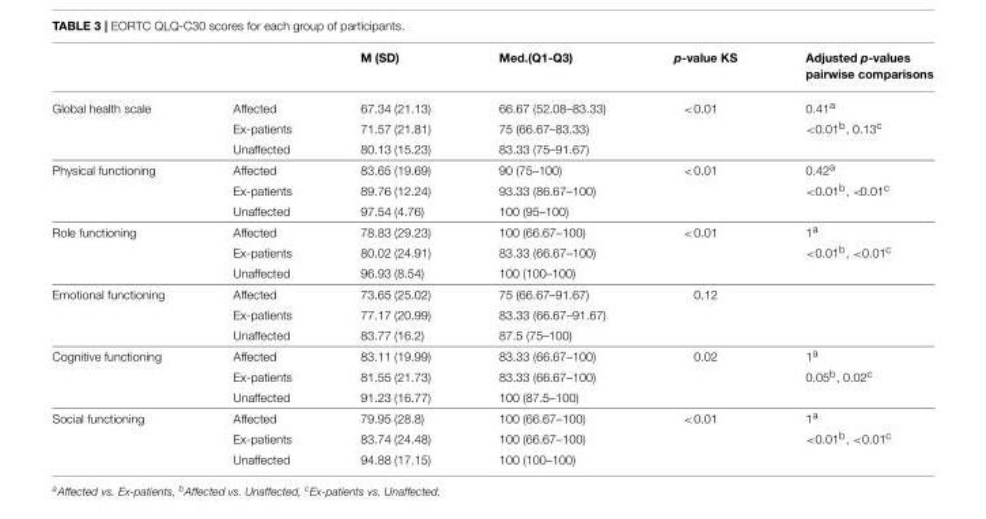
<table><thead><tr><td></td><td></td><td>M (SD)</td><td>Med.(Q1-Q3)</td><td>p-value KS</td><td>Adjusted p-values pairwise comparisons</td></tr></thead><tbody><tr><td rowspan="3">Global health scale</td><td>Affected</td><td>67.34 (21.13)</td><td>66.67 (52.08–83.33)</td><td>&lt;0.01</td><td>0.41<sup>a</sup></td></tr><tr><td>Ex-patients</td><td>71.57 (21.81)</td><td>75 (66.67–83.33)</td><td></td><td>&lt;0.01<sup>b</sup>, 0.13<sup>c</sup></td></tr><tr><td>Unaffected</td><td>80.13 (15.23)</td><td>83.33 (75–91.67)</td><td></td><td></td></tr><tr><td rowspan="3">Physical functioning</td><td>Affected</td><td>83.65 (19.69)</td><td>90 (75–100)</td><td>&lt;0.01</td><td>0.42<sup>a</sup></td></tr><tr><td>Ex-patients</td><td>89.76 (12.24)</td><td>93.33 (86.67–100)</td><td></td><td>&lt;0.01<sup>b</sup>, &lt;0.01<sup>c</sup></td></tr><tr><td>Unaffected</td><td>97.54 (4.76)</td><td>100 (95–100)</td><td></td><td></td></tr><tr><td rowspan="3">Role functioning</td><td>Affected</td><td>78.83 (29.23)</td><td>100 (66.67–100)</td><td>&lt;0.01</td><td>1<sup>a</sup></td></tr><tr><td>Ex-patients</td><td>80.02 (24.91)</td><td>83.33 (66.67–100)</td><td></td><td>&lt;0.01<sup>b</sup>, &lt;0.01<sup>c</sup></td></tr><tr><td>Unaffected</td><td>96.93 (8.54)</td><td>100 (100–100)</td><td></td><td></td></tr><tr><td rowspan="3">Emotional functioning</td><td>Affected</td><td>73.65 (25.02)</td><td>75 (66.67–91.67)</td><td>0.12</td><td></td></tr><tr><td>Ex-patients</td><td>77.17 (20.99)</td><td>83.33 (66.67–91.67)</td><td></td><td></td></tr><tr><td>Unaffected</td><td>83.77 (16.2)</td><td>87.5 (75–100)</td><td></td><td></td></tr><tr><td rowspan="3">Cognitive functioning</td><td>Affected</td><td>83.11 (19.99)</td><td>83.33 (66.67–100)</td><td>0.02</td><td>1<sup>a</sup></td></tr><tr><td>Ex-patients</td><td>81.55 (21.73)</td><td>83.33 (66.67–100)</td><td></td><td>0.05<sup>b</sup>, 0.02<sup>c</sup></td></tr><tr><td>Unaffected</td><td>91.23 (16.77)</td><td>100 (87.5–100)</td><td></td><td></td></tr><tr><td rowspan="3">Social functioning</td><td>Affected</td><td>79.95 (28.8)</td><td>100 (66.67–100)</td><td>&lt;0.01</td><td>1<sup>a</sup></td></tr><tr><td>Ex-patients</td><td>83.74 (24.48)</td><td>100 (66.67–100)</td><td></td><td>&lt;0.01<sup>b</sup>, &lt;0.01<sup>c</sup></td></tr><tr><td>Unaffected</td><td>94.88 (17.15)</td><td>100 (100–100)</td><td></td><td></td></tr></tbody></table>